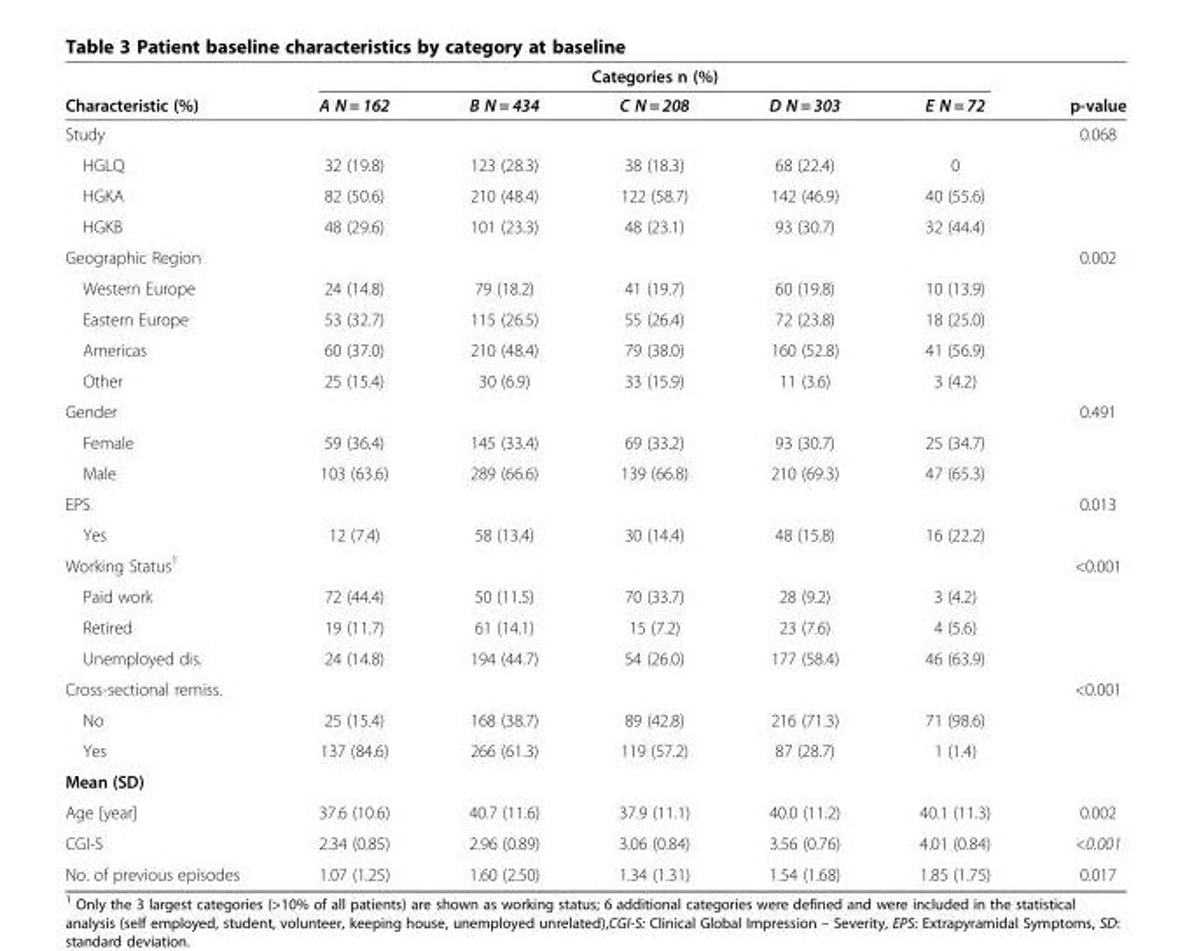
<table><thead><tr><td rowspan="2">Characteristic (%)</td><td colspan="5">Categories n (%)</td><td rowspan="2">p-value</td></tr><tr><td>A N = 162</td><td>B N = 434</td><td>C N = 208</td><td>D N = 303</td><td>E N = 72</td></tr></thead><tbody><tr><td>Study</td><td></td><td></td><td></td><td></td><td></td><td>0.068</td></tr><tr><td>HGLQ</td><td>32 (19.8)</td><td>123 (28.3)</td><td>38 (18.3)</td><td>68 (22.4)</td><td>0</td><td></td></tr><tr><td>HGKA</td><td>82 (50.6)</td><td>210 (48.4)</td><td>122 (58.7)</td><td>142 (46.9)</td><td>40 (55.6)</td><td></td></tr><tr><td>HGKB</td><td>48 (29.6)</td><td>101 (23.3)</td><td>48 (23.1)</td><td>93 (30.7)</td><td>32 (44.4)</td><td></td></tr><tr><td>Geographic Region</td><td></td><td></td><td></td><td></td><td></td><td>0.002</td></tr><tr><td>Western Europe</td><td>24 (14.8)</td><td>79 (18.2)</td><td>41 (19.7)</td><td>60 (19.8)</td><td>10 (13.9)</td><td></td></tr><tr><td>Eastern Europe</td><td>53 (32.7)</td><td>115 (26.5)</td><td>55 (26.4)</td><td>72 (23.8)</td><td>18 (25.0)</td><td></td></tr><tr><td>Americas</td><td>60 (37.0)</td><td>210 (48.4)</td><td>79 (38.0)</td><td>160 (52.8)</td><td>41 (56.9)</td><td></td></tr><tr><td>Other</td><td>25 (15.4)</td><td>30 (6.9)</td><td>33 (15.9)</td><td>11 (3.6)</td><td>3 (4.2)</td><td></td></tr><tr><td>Gender</td><td></td><td></td><td></td><td></td><td></td><td>0.491</td></tr><tr><td>Female</td><td>59 (36.4)</td><td>145 (33.4)</td><td>69 (33.2)</td><td>93 (30.7)</td><td>25 (34.7)</td><td></td></tr><tr><td>Male</td><td>103 (63.6)</td><td>289 (66.6)</td><td>139 (66.8)</td><td>210 (69.3)</td><td>47 (65.3)</td><td></td></tr><tr><td>EPS</td><td></td><td></td><td></td><td></td><td></td><td>0.013</td></tr><tr><td>Yes</td><td>12 (7.4)</td><td>58 (13.4)</td><td>30 (14.4)</td><td>48 (15.8)</td><td>16 (22.2)</td><td></td></tr><tr><td>Working Status<sup>1</sup></td><td></td><td></td><td></td><td></td><td></td><td>&lt;0.001</td></tr><tr><td>Paid work</td><td>72 (44.4)</td><td>50 (11.5)</td><td>70 (33.7)</td><td>28 (9.2)</td><td>3 (4.2)</td><td></td></tr><tr><td>Retired</td><td>19 (11.7)</td><td>61 (14.1)</td><td>15 (7.2)</td><td>23 (7.6)</td><td>4 (5.6)</td><td></td></tr><tr><td>Unemployed dis.</td><td>24 (14.8)</td><td>194 (44.7)</td><td>54 (26.0)</td><td>177 (58.4)</td><td>46 (63.9)</td><td></td></tr><tr><td>Cross-sectional remiss.</td><td></td><td></td><td></td><td></td><td></td><td>&lt;0.001</td></tr><tr><td>No</td><td>25 (15.4)</td><td>168 (38.7)</td><td>89 (42.8)</td><td>216 (71.3)</td><td>71 (98.6)</td><td></td></tr><tr><td>Yes</td><td>137 (84.6)</td><td>266 (61.3)</td><td>119 (57.2)</td><td>87 (28.7)</td><td>1 (1.4)</td><td></td></tr><tr><td colspan="7">Mean (SD)</td></tr><tr><td>Age [year]</td><td>37.6 (10.6)</td><td>40.7 (11.6)</td><td>37.9 (11.1)</td><td>40.0 (11.2)</td><td>40.1 (11.3)</td><td>0.002</td></tr><tr><td>CGI-S</td><td>2.34 (0.85)</td><td>2.96 (0.89)</td><td>3.06 (0.84)</td><td>3.56 (0.76)</td><td>4.01 (0.84)</td><td>&lt;0.001</td></tr><tr><td>No. of previous episodes</td><td>1.07 (1.25)</td><td>1.60 (2.50)</td><td>1.34 (1.31)</td><td>1.54 (1.68)</td><td>1.85 (1.75)</td><td>0.017</td></tr></tbody></table>